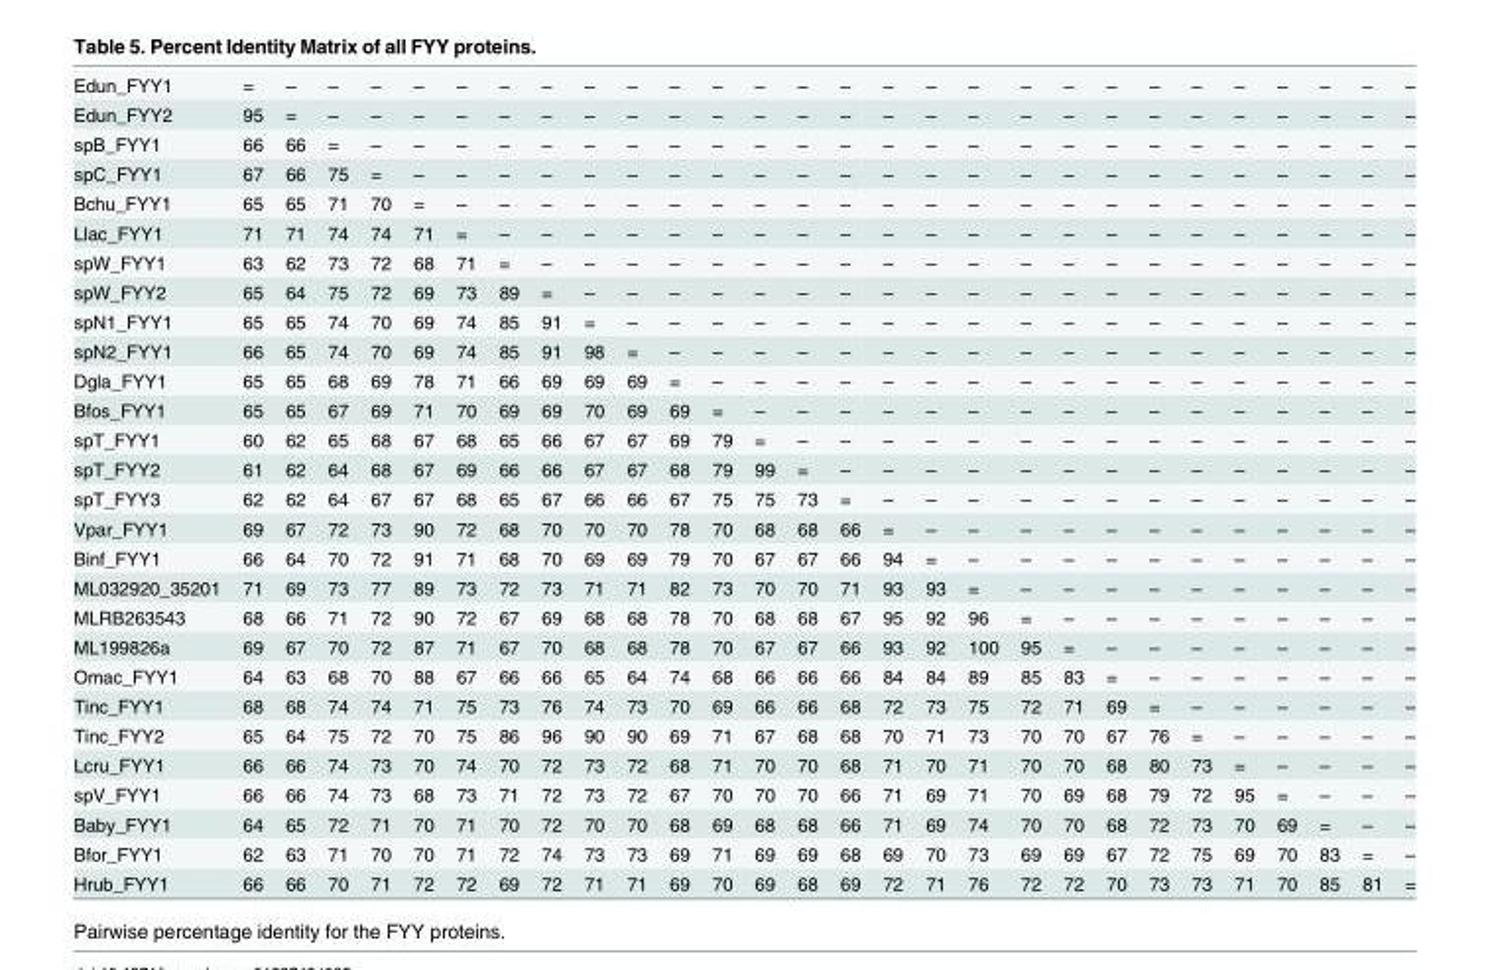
<table><tbody><tr><td>Edun_FYY1</td><td>=</td><td>–</td><td>–</td><td>–</td><td>–</td><td>–</td><td>–</td><td>–</td><td>–</td><td>–</td><td>–</td><td>–</td><td>–</td><td>–</td><td>–</td><td>–</td><td>–</td><td>–</td><td>–</td><td>–</td><td>–</td><td>–</td><td>–</td><td>–</td><td>–</td><td>–</td><td>–</td><td>–</td></tr><tr><td>Edun_FYY2</td><td>95</td><td>=</td><td>–</td><td>–</td><td>–</td><td>–</td><td>–</td><td>–</td><td>–</td><td>–</td><td>–</td><td>–</td><td>–</td><td>–</td><td>–</td><td>–</td><td>–</td><td>–</td><td>–</td><td>–</td><td>–</td><td>–</td><td>–</td><td>–</td><td>–</td><td>–</td><td>–</td><td>–</td></tr><tr><td>spB_FYY1</td><td>66</td><td>66</td><td>=</td><td>–</td><td>–</td><td>–</td><td>–</td><td>–</td><td>–</td><td>–</td><td>–</td><td>–</td><td>–</td><td>–</td><td>–</td><td>–</td><td>–</td><td>–</td><td>–</td><td>–</td><td>–</td><td>–</td><td>–</td><td>–</td><td>–</td><td>–</td><td>–</td><td>–</td></tr><tr><td>spC_FYY1</td><td>67</td><td>66</td><td>75</td><td>=</td><td>–</td><td>–</td><td>–</td><td>–</td><td>–</td><td>–</td><td>–</td><td>–</td><td>–</td><td>–</td><td>–</td><td>–</td><td>–</td><td>–</td><td>–</td><td>–</td><td>–</td><td>–</td><td>–</td><td>–</td><td>–</td><td>–</td><td>–</td><td>–</td></tr><tr><td>Bchu_FYY1</td><td>65</td><td>65</td><td>71</td><td>70</td><td>=</td><td>–</td><td>–</td><td>–</td><td>–</td><td>–</td><td>–</td><td>–</td><td>–</td><td>–</td><td>–</td><td>–</td><td>–</td><td>–</td><td>–</td><td>–</td><td>–</td><td>–</td><td>–</td><td>–</td><td>–</td><td>–</td><td>–</td><td>–</td></tr><tr><td>Llac_FYY1</td><td>71</td><td>71</td><td>74</td><td>74</td><td>71</td><td>=</td><td>–</td><td>–</td><td>–</td><td>–</td><td>–</td><td>–</td><td>–</td><td>–</td><td>–</td><td>–</td><td>–</td><td>–</td><td>–</td><td>–</td><td>–</td><td>–</td><td>–</td><td>–</td><td>–</td><td>–</td><td>–</td><td>–</td></tr><tr><td>spW_FYY1</td><td>63</td><td>62</td><td>73</td><td>72</td><td>68</td><td>71</td><td>=</td><td>–</td><td>–</td><td>–</td><td>–</td><td>–</td><td>–</td><td>–</td><td>–</td><td>–</td><td>–</td><td>–</td><td>–</td><td>–</td><td>–</td><td>–</td><td>–</td><td>–</td><td>–</td><td>–</td><td>–</td><td>–</td></tr><tr><td>spW_FYY2</td><td>65</td><td>64</td><td>75</td><td>72</td><td>69</td><td>73</td><td>89</td><td>=</td><td>–</td><td>–</td><td>–</td><td>–</td><td>–</td><td>–</td><td>–</td><td>–</td><td>–</td><td>–</td><td>–</td><td>–</td><td>–</td><td>–</td><td>–</td><td>–</td><td>–</td><td>–</td><td>–</td><td>–</td></tr><tr><td>spN1_FYY1</td><td>65</td><td>65</td><td>74</td><td>70</td><td>69</td><td>74</td><td>85</td><td>91</td><td>=</td><td>–</td><td>–</td><td>–</td><td>–</td><td>–</td><td>–</td><td>–</td><td>–</td><td>–</td><td>–</td><td>–</td><td>–</td><td>–</td><td>–</td><td>–</td><td>–</td><td>–</td><td>–</td><td>–</td></tr><tr><td>spN2_FYY1</td><td>66</td><td>65</td><td>74</td><td>70</td><td>69</td><td>74</td><td>85</td><td>91</td><td>98</td><td>=</td><td>–</td><td>–</td><td>–</td><td>–</td><td>–</td><td>–</td><td>–</td><td>–</td><td>–</td><td>–</td><td>–</td><td>–</td><td>–</td><td>–</td><td>–</td><td>–</td><td>–</td><td>–</td></tr><tr><td>Dgla_FYY1</td><td>65</td><td>65</td><td>68</td><td>69</td><td>78</td><td>71</td><td>66</td><td>69</td><td>69</td><td>69</td><td>=</td><td>–</td><td>–</td><td>–</td><td>–</td><td>–</td><td>–</td><td>–</td><td>–</td><td>–</td><td>–</td><td>–</td><td>–</td><td>–</td><td>–</td><td>–</td><td>–</td><td>–</td></tr><tr><td>Bfos_FYY1</td><td>65</td><td>65</td><td>67</td><td>69</td><td>71</td><td>70</td><td>69</td><td>69</td><td>70</td><td>69</td><td>69</td><td>=</td><td>–</td><td>–</td><td>–</td><td>–</td><td>–</td><td>–</td><td>–</td><td>–</td><td>–</td><td>–</td><td>–</td><td>–</td><td>–</td><td>–</td><td>–</td><td>–</td></tr><tr><td>spT_FYY1</td><td>60</td><td>62</td><td>65</td><td>68</td><td>67</td><td>68</td><td>65</td><td>66</td><td>67</td><td>67</td><td>69</td><td>79</td><td>=</td><td>–</td><td>–</td><td>–</td><td>–</td><td>–</td><td>–</td><td>–</td><td>–</td><td>–</td><td>–</td><td>–</td><td>–</td><td>–</td><td>–</td><td>–</td></tr><tr><td>spT_FYY2</td><td>61</td><td>62</td><td>64</td><td>68</td><td>67</td><td>69</td><td>66</td><td>66</td><td>67</td><td>67</td><td>68</td><td>79</td><td>99</td><td>=</td><td>–</td><td>–</td><td>–</td><td>–</td><td>–</td><td>–</td><td>–</td><td>–</td><td>–</td><td>–</td><td>–</td><td>–</td><td>–</td><td>–</td></tr><tr><td>spT_FYY3</td><td>62</td><td>62</td><td>64</td><td>67</td><td>67</td><td>68</td><td>65</td><td>67</td><td>66</td><td>66</td><td>67</td><td>75</td><td>75</td><td>73</td><td>=</td><td>–</td><td>–</td><td>–</td><td>–</td><td>–</td><td>–</td><td>–</td><td>–</td><td>–</td><td>–</td><td>–</td><td>–</td><td>–</td></tr><tr><td>Vpar_FYY1</td><td>69</td><td>67</td><td>72</td><td>73</td><td>90</td><td>72</td><td>68</td><td>70</td><td>70</td><td>70</td><td>78</td><td>70</td><td>68</td><td>68</td><td>66</td><td>=</td><td>–</td><td>–</td><td>–</td><td>–</td><td>–</td><td>–</td><td>–</td><td>–</td><td>–</td><td>–</td><td>–</td><td>–</td></tr><tr><td>Binf_FYY1</td><td>66</td><td>64</td><td>70</td><td>72</td><td>91</td><td>71</td><td>68</td><td>70</td><td>69</td><td>69</td><td>79</td><td>70</td><td>67</td><td>67</td><td>66</td><td>94</td><td>=</td><td>–</td><td>–</td><td>–</td><td>–</td><td>–</td><td>–</td><td>–</td><td>–</td><td>–</td><td>–</td><td>–</td></tr><tr><td>ML032920_35201</td><td>71</td><td>69</td><td>73</td><td>77</td><td>89</td><td>73</td><td>72</td><td>73</td><td>71</td><td>71</td><td>82</td><td>73</td><td>70</td><td>70</td><td>71</td><td>93</td><td>93</td><td>=</td><td>–</td><td>–</td><td>–</td><td>–</td><td>–</td><td>–</td><td>–</td><td>–</td><td>–</td><td>–</td></tr><tr><td>MLRB263543</td><td>68</td><td>66</td><td>71</td><td>72</td><td>90</td><td>72</td><td>67</td><td>69</td><td>68</td><td>68</td><td>78</td><td>70</td><td>68</td><td>68</td><td>67</td><td>95</td><td>92</td><td>96</td><td>=</td><td>–</td><td>–</td><td>–</td><td>–</td><td>–</td><td>–</td><td>–</td><td>–</td><td>–</td></tr><tr><td>ML199826a</td><td>69</td><td>67</td><td>70</td><td>72</td><td>87</td><td>71</td><td>67</td><td>70</td><td>68</td><td>68</td><td>78</td><td>70</td><td>67</td><td>67</td><td>66</td><td>93</td><td>92</td><td>100</td><td>95</td><td>=</td><td>–</td><td>–</td><td>–</td><td>–</td><td>–</td><td>–</td><td>–</td><td>–</td></tr><tr><td>Omac_FYY1</td><td>64</td><td>63</td><td>68</td><td>70</td><td>88</td><td>67</td><td>66</td><td>66</td><td>65</td><td>64</td><td>74</td><td>68</td><td>66</td><td>66</td><td>66</td><td>84</td><td>84</td><td>89</td><td>85</td><td>83</td><td>=</td><td>–</td><td>–</td><td>–</td><td>–</td><td>–</td><td>–</td><td>–</td></tr><tr><td>Tinc_FYY1</td><td>68</td><td>68</td><td>74</td><td>74</td><td>71</td><td>75</td><td>73</td><td>76</td><td>74</td><td>73</td><td>70</td><td>69</td><td>66</td><td>66</td><td>68</td><td>72</td><td>73</td><td>75</td><td>72</td><td>71</td><td>69</td><td>=</td><td>–</td><td>–</td><td>–</td><td>–</td><td>–</td><td>–</td></tr><tr><td>Tinc_FYY2</td><td>65</td><td>64</td><td>75</td><td>72</td><td>70</td><td>75</td><td>86</td><td>96</td><td>90</td><td>90</td><td>69</td><td>71</td><td>67</td><td>68</td><td>68</td><td>70</td><td>71</td><td>73</td><td>70</td><td>70</td><td>67</td><td>76</td><td>=</td><td>–</td><td>–</td><td>–</td><td>–</td><td>–</td></tr><tr><td>Lcru_FYY1</td><td>66</td><td>66</td><td>74</td><td>73</td><td>70</td><td>74</td><td>70</td><td>72</td><td>73</td><td>72</td><td>68</td><td>71</td><td>70</td><td>70</td><td>68</td><td>71</td><td>70</td><td>71</td><td>70</td><td>70</td><td>68</td><td>80</td><td>73</td><td>=</td><td>–</td><td>–</td><td>–</td><td>–</td></tr><tr><td>spV_FYY1</td><td>66</td><td>66</td><td>74</td><td>73</td><td>68</td><td>73</td><td>71</td><td>72</td><td>73</td><td>72</td><td>67</td><td>70</td><td>70</td><td>70</td><td>66</td><td>71</td><td>69</td><td>71</td><td>70</td><td>69</td><td>68</td><td>79</td><td>72</td><td>95</td><td>=</td><td>–</td><td>–</td><td>–</td></tr><tr><td>Baby_FYY1</td><td>64</td><td>65</td><td>72</td><td>71</td><td>70</td><td>71</td><td>70</td><td>72</td><td>70</td><td>70</td><td>68</td><td>69</td><td>68</td><td>68</td><td>66</td><td>71</td><td>69</td><td>74</td><td>70</td><td>70</td><td>68</td><td>72</td><td>73</td><td>70</td><td>69</td><td>=</td><td>–</td><td>–</td></tr><tr><td>Bfor_FYY1</td><td>62</td><td>63</td><td>71</td><td>70</td><td>70</td><td>71</td><td>72</td><td>74</td><td>73</td><td>73</td><td>69</td><td>71</td><td>69</td><td>69</td><td>68</td><td>69</td><td>70</td><td>73</td><td>69</td><td>69</td><td>67</td><td>72</td><td>75</td><td>69</td><td>70</td><td>83</td><td>=</td><td>–</td></tr><tr><td>Hrub_FYY1</td><td>66</td><td>66</td><td>70</td><td>71</td><td>72</td><td>72</td><td>69</td><td>72</td><td>71</td><td>71</td><td>69</td><td>70</td><td>69</td><td>68</td><td>69</td><td>72</td><td>71</td><td>76</td><td>72</td><td>72</td><td>70</td><td>73</td><td>73</td><td>71</td><td>70</td><td>85</td><td>81</td><td>=</td></tr></tbody></table>